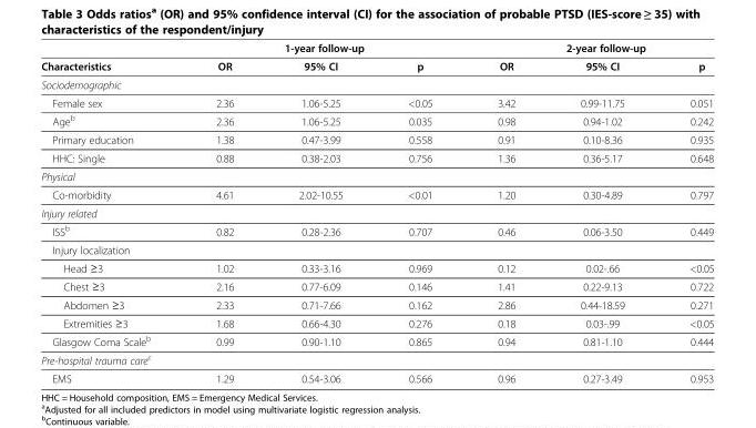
<table><thead><tr><td rowspan="2">Characteristics</td><td colspan="3">1-year follow-up</td><td colspan="3">2-year follow-up</td></tr><tr><td>OR</td><td>95% CI</td><td>p</td><td>OR</td><td>95% CI</td><td>p</td></tr></thead><tbody><tr><td colspan="7">Sociodemographic</td></tr><tr><td>Female sex</td><td>2.36</td><td>1.06-5.25</td><td>&lt;0.05</td><td>3.42</td><td>0.99-11.75</td><td>0.051</td></tr><tr><td>Age<sup>b</sup></td><td>2.36</td><td>1.06-5.25</td><td>0.035</td><td>0.98</td><td>0.94-1.02</td><td>0.242</td></tr><tr><td>Primary education</td><td>1.38</td><td>0.47-3.99</td><td>0.558</td><td>0.91</td><td>0.10-8.36</td><td>0.935</td></tr><tr><td>HHC: Single</td><td>0.88</td><td>0.38-2.03</td><td>0.756</td><td>1.36</td><td>0.36-5.17</td><td>0.648</td></tr><tr><td colspan="7">Physical</td></tr><tr><td>Co-morbidity</td><td>4.61</td><td>2.02-10.55</td><td>&lt;0.01</td><td>1.20</td><td>0.30-4.89</td><td>0.797</td></tr><tr><td colspan="7">Injury related</td></tr><tr><td>ISS<sup>b</sup></td><td>0.82</td><td>0.28-2.36</td><td>0.707</td><td>0.46</td><td>0.06-3.50</td><td>0.449</td></tr><tr><td colspan="7">Injury localization</td></tr><tr><td>Head ≥3</td><td>1.02</td><td>0.33-3.16</td><td>0.969</td><td>0.12</td><td>0.02-.66</td><td>&lt;0.05</td></tr><tr><td>Chest ≥3</td><td>2.16</td><td>0.77-6.09</td><td>0.146</td><td>1.41</td><td>0.22-9.13</td><td>0.722</td></tr><tr><td>Abdomen ≥3</td><td>2.33</td><td>0.71-7.66</td><td>0.162</td><td>2.86</td><td>0.44-18.59</td><td>0.271</td></tr><tr><td>Extremities ≥3</td><td>1.68</td><td>0.66-4.30</td><td>0.276</td><td>0.18</td><td>0.03-.99</td><td>&lt;0.05</td></tr><tr><td>Glasgow Coma Scale<sup>b</sup></td><td>0.99</td><td>0.90-1.10</td><td>0.865</td><td>0.94</td><td>0.81-1.10</td><td>0.444</td></tr><tr><td colspan="7">Pre-hospital trauma care<sup>c</sup></td></tr><tr><td>EMS</td><td>1.29</td><td>0.54-3.06</td><td>0.566</td><td>0.96</td><td>0.27-3.49</td><td>0.953</td></tr></tbody></table>